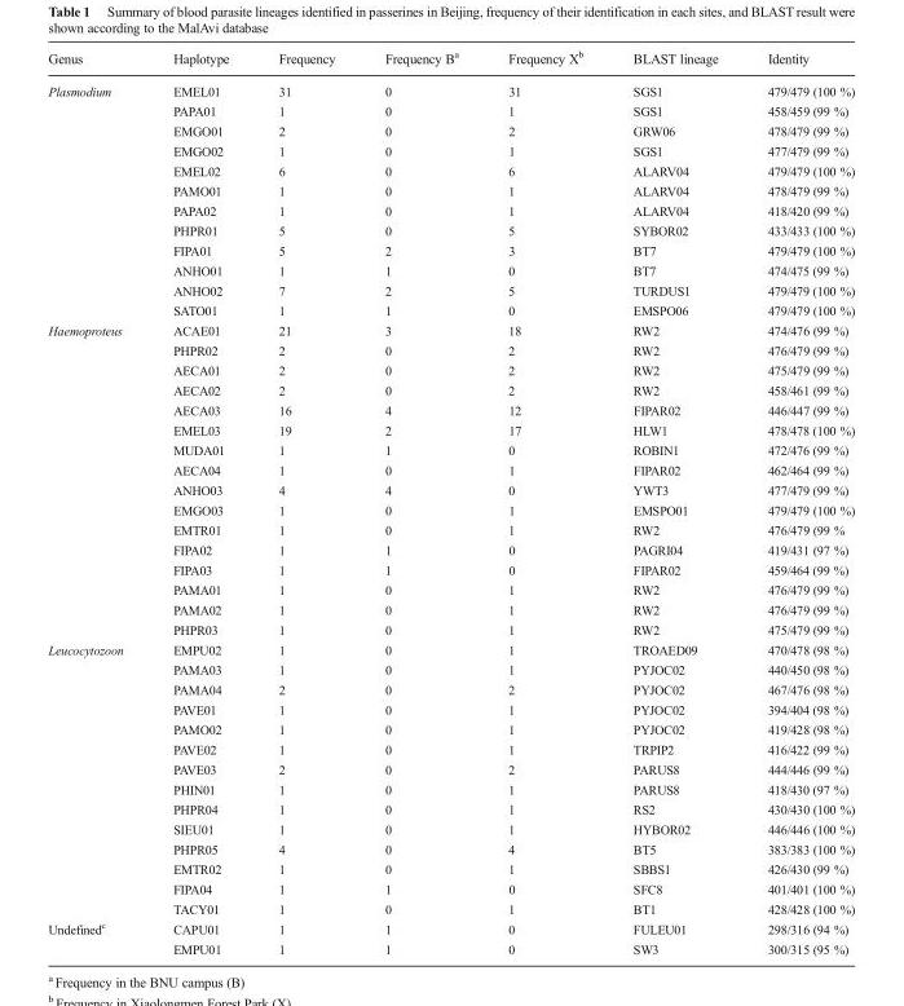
<table><thead><tr><td>Genus</td><td>Haplotype</td><td>Frequency</td><td>Frequency B<sup>a</sup></td><td>Frequency X<sup>b</sup></td><td>BLAST lineage</td><td>Identity</td></tr></thead><tbody><tr><td rowspan="12">Plasmodium</td><td>EMEL01</td><td>31</td><td>0</td><td>31</td><td>SGS1</td><td>479/479 (100 %)</td></tr><tr><td>PAPA01</td><td>1</td><td>0</td><td>1</td><td>SGS1</td><td>458/459 (99 %)</td></tr><tr><td>EMGO01</td><td>2</td><td>0</td><td>2</td><td>GRW06</td><td>478/479 (99 %)</td></tr><tr><td>EMGO02</td><td>1</td><td>0</td><td>1</td><td>SGS1</td><td>477/479 (99 %)</td></tr><tr><td>EMEL02</td><td>6</td><td>0</td><td>6</td><td>ALARV04</td><td>479/479 (100 %)</td></tr><tr><td>PAMO01</td><td>1</td><td>0</td><td>1</td><td>ALARV04</td><td>478/479 (99 %)</td></tr><tr><td>PAPA02</td><td>1</td><td>0</td><td>1</td><td>ALARV04</td><td>418/420 (99 %)</td></tr><tr><td>PHPR01</td><td>5</td><td>0</td><td>5</td><td>SYBOR02</td><td>433/433 (100 %)</td></tr><tr><td>FIPA01</td><td>5</td><td>2</td><td>3</td><td>BT7</td><td>479/479 (100 %)</td></tr><tr><td>ANHO01</td><td>1</td><td>1</td><td>0</td><td>BT7</td><td>474/475 (99 %)</td></tr><tr><td>ANHO02</td><td>7</td><td>2</td><td>5</td><td>TURDUS1</td><td>479/479 (100 %)</td></tr><tr><td>SATO01</td><td>1</td><td>1</td><td>0</td><td>EMSPO06</td><td>479/479 (100 %)</td></tr><tr><td rowspan="16">Haemoproteus</td><td>ACAE01</td><td>21</td><td>3</td><td>18</td><td>RW2</td><td>474/476 (99 %)</td></tr><tr><td>PHPR02</td><td>2</td><td>0</td><td>2</td><td>RW2</td><td>476/479 (99 %)</td></tr><tr><td>AECA01</td><td>2</td><td>0</td><td>2</td><td>RW2</td><td>475/479 (99 %)</td></tr><tr><td>AECA02</td><td>2</td><td>0</td><td>2</td><td>RW2</td><td>458/461 (99 %)</td></tr><tr><td>AECA03</td><td>16</td><td>4</td><td>12</td><td>FIPAR02</td><td>446/447 (99 %)</td></tr><tr><td>EMEL03</td><td>19</td><td>2</td><td>17</td><td>HLW1</td><td>478/478 (100 %)</td></tr><tr><td>MUDA01</td><td>1</td><td>1</td><td>0</td><td>ROBIN1</td><td>472/476 (99 %)</td></tr><tr><td>AECA04</td><td>1</td><td>0</td><td>1</td><td>FIPAR02</td><td>462/464 (99 %)</td></tr><tr><td>ANHO03</td><td>4</td><td>4</td><td>0</td><td>YWT3</td><td>477/479 (99 %)</td></tr><tr><td>EMGO03</td><td>1</td><td>0</td><td>1</td><td>EMSPO01</td><td>479/479 (100 %)</td></tr><tr><td>EMTR01</td><td>1</td><td>0</td><td>1</td><td>RW2</td><td>476/479 (99 %</td></tr><tr><td>FIPA02</td><td>1</td><td>1</td><td>0</td><td>PAGRI04</td><td>419/431 (97 %)</td></tr><tr><td>FIPA03</td><td>1</td><td>1</td><td>0</td><td>FIPAR02</td><td>459/464 (99 %)</td></tr><tr><td>PAMA01</td><td>1</td><td>0</td><td>1</td><td>RW2</td><td>476/479 (99 %)</td></tr><tr><td>PAMA02</td><td>1</td><td>0</td><td>1</td><td>RW2</td><td>476/479 (99 %)</td></tr><tr><td>PHPR03</td><td>1</td><td>0</td><td>1</td><td>RW2</td><td>475/479 (99 %)</td></tr><tr><td rowspan="14">Leucocytozoon</td><td>EMPU02</td><td>1</td><td>0</td><td>1</td><td>TROAED09</td><td>470/478 (98 %)</td></tr><tr><td>PAMA03</td><td>1</td><td>0</td><td>1</td><td>PYJOC02</td><td>440/450 (98 %)</td></tr><tr><td>PAMA04</td><td>2</td><td>0</td><td>2</td><td>PYJOC02</td><td>467/476 (98 %)</td></tr><tr><td>PAVE01</td><td>1</td><td>0</td><td>1</td><td>PYJOC02</td><td>394/404 (98 %)</td></tr><tr><td>PAMO02</td><td>1</td><td>0</td><td>1</td><td>PYJOC02</td><td>419/428 (98 %)</td></tr><tr><td>PAVE02</td><td>1</td><td>0</td><td>1</td><td>TRPIP2</td><td>416/422 (99 %)</td></tr><tr><td>PAVE03</td><td>2</td><td>0</td><td>2</td><td>PARUS8</td><td>444/446 (99 %)</td></tr><tr><td>PHIN01</td><td>1</td><td>0</td><td>1</td><td>PARUS8</td><td>418/430 (97 %)</td></tr><tr><td>PHPR04</td><td>1</td><td>0</td><td>1</td><td>RS2</td><td>430/430 (100 %)</td></tr><tr><td>SIEU01</td><td>1</td><td>0</td><td>1</td><td>HYBOR02</td><td>446/446 (100 %)</td></tr><tr><td>PHPR05</td><td>4</td><td>0</td><td>4</td><td>BT5</td><td>383/383 (100 %)</td></tr><tr><td>EMTR02</td><td>1</td><td>0</td><td>1</td><td>SBBS1</td><td>426/430 (99 %)</td></tr><tr><td>FIPA04</td><td>1</td><td>1</td><td>0</td><td>SFC8</td><td>401/401 (100 %)</td></tr><tr><td>TACY01</td><td>1</td><td>0</td><td>1</td><td>BT1</td><td>428/428 (100 %)</td></tr><tr><td rowspan="2">Undefined<sup>c</sup></td><td>CAPU01</td><td>1</td><td>1</td><td>0</td><td>FULEU01</td><td>298/316 (94 %)</td></tr><tr><td>EMPU01</td><td>1</td><td>1</td><td>0</td><td>SW3</td><td>300/315 (95 %)</td></tr></tbody></table>